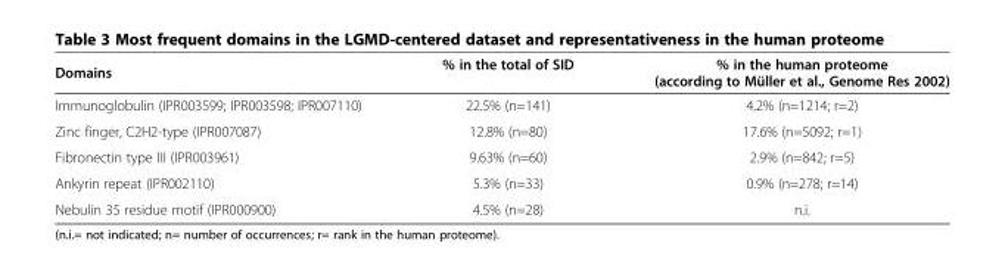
<table><thead><tr><td>Domains</td><td>% in the total of SID</td><td>% in the human proteome (according to Müller et al., Genome Res 2002)</td></tr></thead><tbody><tr><td>Immunoglobulin (IPR003599; IPR003598; IPR007110)</td><td>22.5% (n=141)</td><td>4.2% (n=1214; r=2)</td></tr><tr><td>Zinc finger, C2H2-type (IPR007087)</td><td>12.8% (n=80)</td><td>17.6% (n=5092; r=1)</td></tr><tr><td>Fibronectin type III (IPR003961)</td><td>9.63% (n=60)</td><td>2.9% (n=842; r=5)</td></tr><tr><td>Ankyrin repeat (IPR002110)</td><td>5.3% (n=33)</td><td>0.9% (n=278; r=14)</td></tr><tr><td>Nebulin 35 residue motif (IPR000900)</td><td>4.5% (n=28)</td><td>n.i.</td></tr></tbody></table>